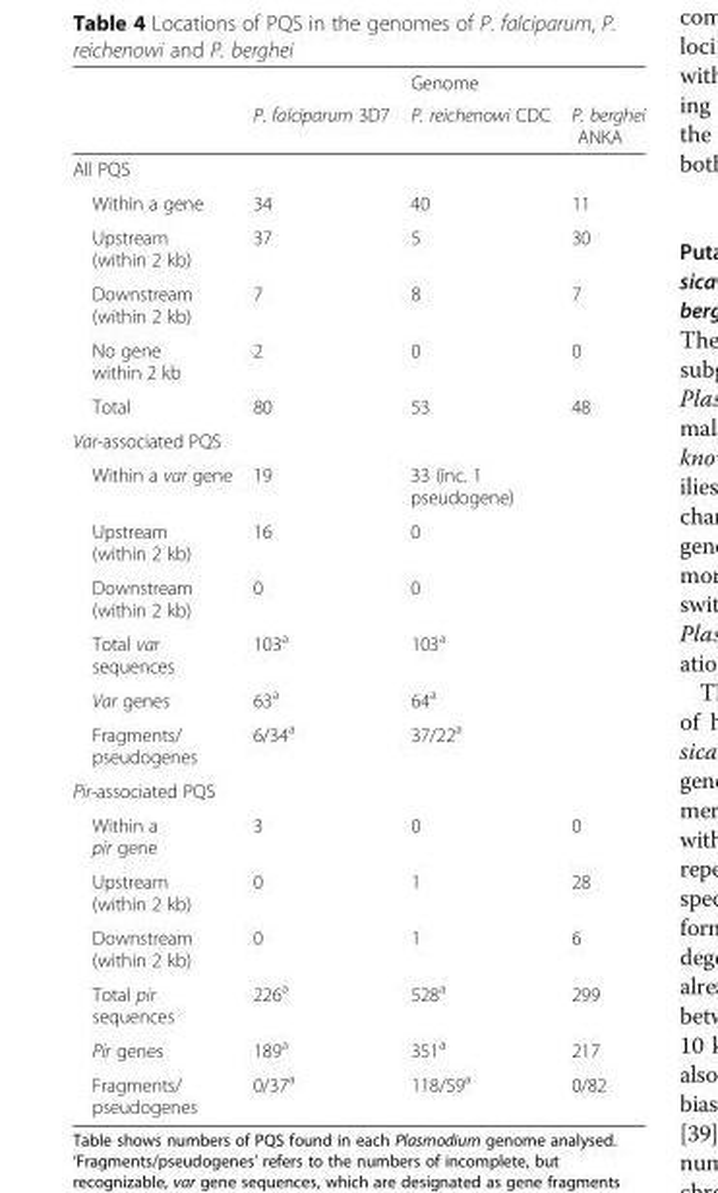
<table><thead><tr><td rowspan="2"></td><td rowspan="2">P. falciparum 3D7</td><td rowspan="2">Genome P. reichenowi CDC</td><td rowspan="2">P. berghei ANKA</td></tr><tr></tr></thead><tbody><tr><td colspan="4">All PQS</td></tr><tr><td>Within a gene</td><td>34</td><td>40</td><td>11</td></tr><tr><td>Upstream (within 2 kb)</td><td>37</td><td>5</td><td>30</td></tr><tr><td>Downstream (within 2 kb)</td><td>7</td><td>8</td><td>7</td></tr><tr><td>No gene within 2 kb</td><td>2</td><td>0</td><td>0</td></tr><tr><td>Total</td><td>80</td><td>53</td><td>48</td></tr><tr><td colspan="4">Var-associated PQS</td></tr><tr><td>Within a var gene</td><td>19</td><td>33 (inc. 1 pseudogene)</td><td></td></tr><tr><td>Upstream (within 2 kb)</td><td>16</td><td>0</td><td></td></tr><tr><td>Downstream (within 2 kb)</td><td>0</td><td>0</td><td></td></tr><tr><td>Total var sequences</td><td>103<sup>a</sup></td><td>103<sup>a</sup></td><td></td></tr><tr><td>Var genes</td><td>63<sup>a</sup></td><td>64<sup>a</sup></td><td></td></tr><tr><td>Fragments/ pseudogenes</td><td>6/34<sup>a</sup></td><td>37/22<sup>a</sup></td><td></td></tr><tr><td colspan="4">Pir-associated PQS</td></tr><tr><td>Within a pir gene</td><td>3</td><td>0</td><td>0</td></tr><tr><td>Upstream (within 2 kb)</td><td>0</td><td>1</td><td>28</td></tr><tr><td>Downstream (within 2 kb)</td><td>0</td><td>1</td><td>6</td></tr><tr><td>Total pir sequences</td><td>226<sup>a</sup></td><td>528<sup>a</sup></td><td>299</td></tr><tr><td>Pir genes</td><td>189<sup>a</sup></td><td>351<sup>a</sup></td><td>217</td></tr><tr><td>Fragments/ pseudogenes</td><td>0/37<sup>a</sup></td><td>118/59<sup>a</sup></td><td>0/82</td></tr></tbody></table>